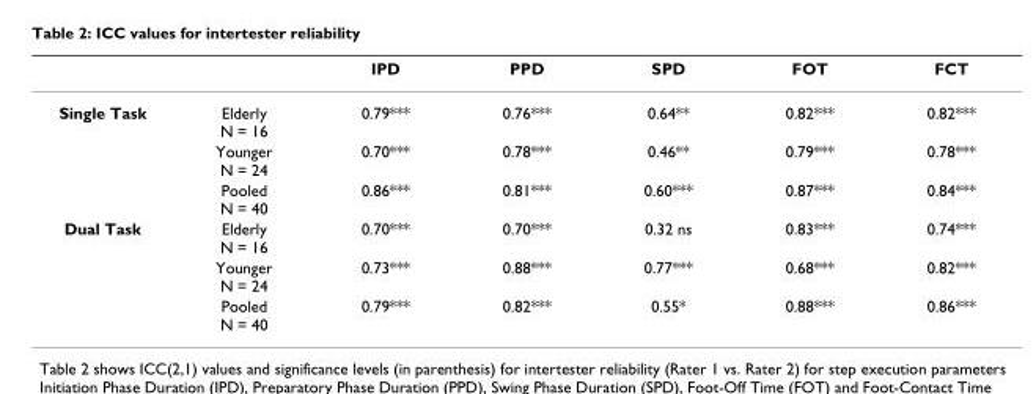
<table><thead><tr><td></td><td></td><td>IPD</td><td>PPD</td><td>SPD</td><td>FOT</td><td>FCT</td></tr></thead><tbody><tr><td rowspan="3">Single Task</td><td>Elderly N = 16</td><td>0.79***</td><td>0.76***</td><td>0.64**</td><td>0.82***</td><td>0.82***</td></tr><tr><td>Younger N = 24</td><td>0.70***</td><td>0.78***</td><td>0.46**</td><td>0.79***</td><td>0.78***</td></tr><tr><td>Pooled N = 40</td><td>0.86***</td><td>0.81***</td><td>0.60***</td><td>0.87***</td><td>0.84***</td></tr><tr><td rowspan="3">Dual Task</td><td>Elderly N = 16</td><td>0.70***</td><td>0.70***</td><td>0.32 ns</td><td>0.83***</td><td>0.74***</td></tr><tr><td>Younger N = 24</td><td>0.73***</td><td>0.88***</td><td>0.77***</td><td>0.68***</td><td>0.82***</td></tr><tr><td>Pooled N = 40</td><td>0.79***</td><td>0.82***</td><td>0.55*</td><td>0.88***</td><td>0.86***</td></tr></tbody></table>